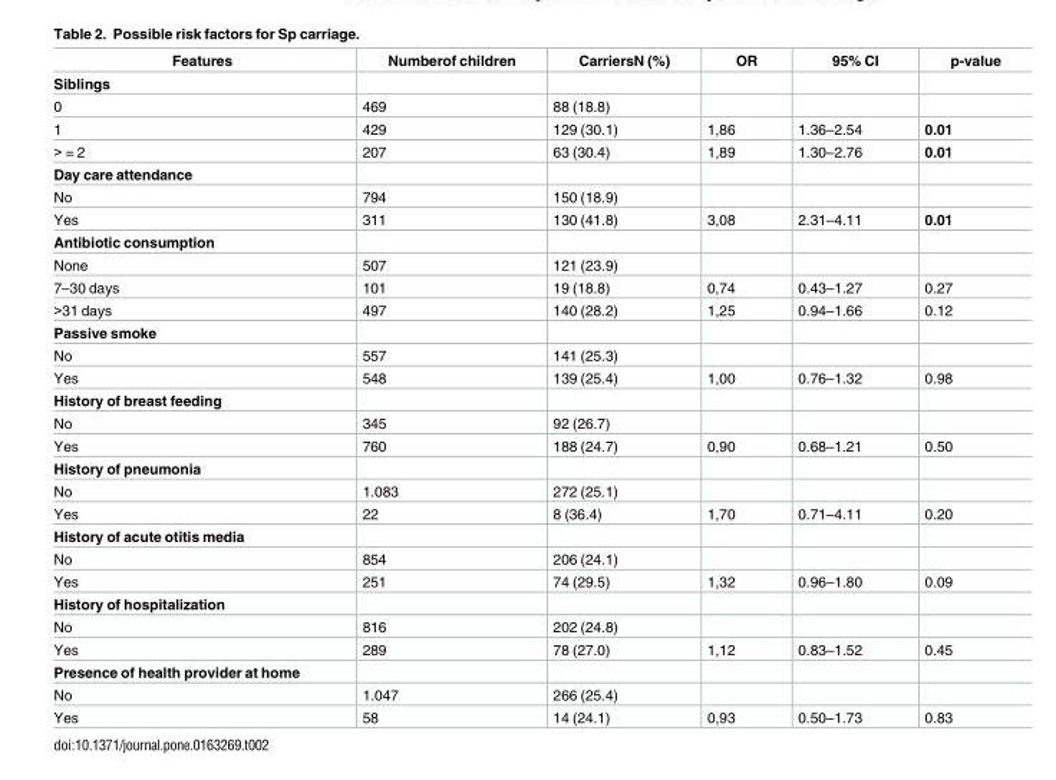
<table><thead><tr><td>Features</td><td>Numberof children</td><td>CarriersN (%)</td><td>OR</td><td>95% CI</td><td>p-value</td></tr></thead><tbody><tr><td colspan="6">Siblings</td></tr><tr><td>0</td><td>469</td><td>88 (18.8)</td><td></td><td></td><td></td></tr><tr><td>1</td><td>429</td><td>129 (30.1)</td><td>1,86</td><td>1.36–2.54</td><td>0.01</td></tr><tr><td>&gt; = 2</td><td>207</td><td>63 (30.4)</td><td>1,89</td><td>1.30–2.76</td><td>0.01</td></tr><tr><td colspan="6">Day care attendance</td></tr><tr><td>No</td><td>794</td><td>150 (18.9)</td><td></td><td></td><td></td></tr><tr><td>Yes</td><td>311</td><td>130 (41.8)</td><td>3,08</td><td>2.31–4.11</td><td>0.01</td></tr><tr><td colspan="6">Antibiotic consumption</td></tr><tr><td>None</td><td>507</td><td>121 (23.9)</td><td></td><td></td><td></td></tr><tr><td>7–30 days</td><td>101</td><td>19 (18.8)</td><td>0,74</td><td>0.43–1.27</td><td>0.27</td></tr><tr><td>&gt;31 days</td><td>497</td><td>140 (28.2)</td><td>1,25</td><td>0.94–1.66</td><td>0.12</td></tr><tr><td colspan="6">Passive smoke</td></tr><tr><td>No</td><td>557</td><td>141 (25.3)</td><td></td><td></td><td></td></tr><tr><td>Yes</td><td>548</td><td>139 (25.4)</td><td>1,00</td><td>0.76–1.32</td><td>0.98</td></tr><tr><td colspan="6">History of breast feeding</td></tr><tr><td>No</td><td>345</td><td>92 (26.7)</td><td></td><td></td><td></td></tr><tr><td>Yes</td><td>760</td><td>188 (24.7)</td><td>0,90</td><td>0.68–1.21</td><td>0.50</td></tr><tr><td colspan="6">History of pneumonia</td></tr><tr><td>No</td><td>1.083</td><td>272 (25.1)</td><td></td><td></td><td></td></tr><tr><td>Yes</td><td>22</td><td>8 (36.4)</td><td>1,70</td><td>0.71–4.11</td><td>0.20</td></tr><tr><td colspan="6">History of acute otitis media</td></tr><tr><td>No</td><td>854</td><td>206 (24.1)</td><td></td><td></td><td></td></tr><tr><td>Yes</td><td>251</td><td>74 (29.5)</td><td>1,32</td><td>0.96–1.80</td><td>0.09</td></tr><tr><td colspan="6">History of hospitalization</td></tr><tr><td>No</td><td>816</td><td>202 (24.8)</td><td></td><td></td><td></td></tr><tr><td>Yes</td><td>289</td><td>78 (27.0)</td><td>1,12</td><td>0.83–1.52</td><td>0.45</td></tr><tr><td colspan="6">Presence of health provider at home</td></tr><tr><td>No</td><td>1.047</td><td>266 (25.4)</td><td></td><td></td><td></td></tr><tr><td>Yes</td><td>58</td><td>14 (24.1)</td><td>0,93</td><td>0.50–1.73</td><td>0.83</td></tr></tbody></table>